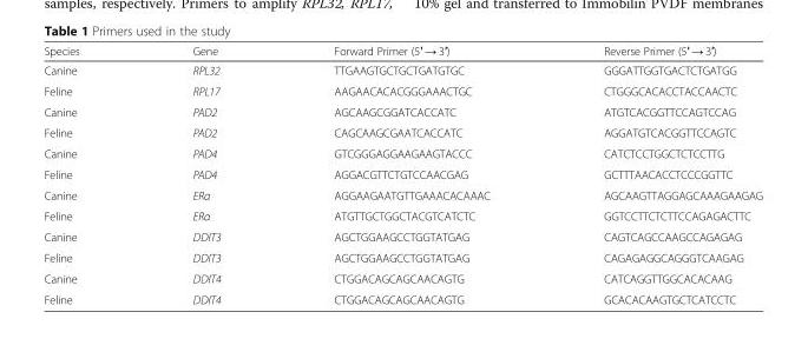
<table><thead><tr><td>Species</td><td>Gene</td><td>Forward Primer (5′ → 3′)</td><td>Reverse Primer (5′ → 3′)</td></tr></thead><tbody><tr><td>Canine</td><td>RPL32</td><td>TTGAAGTGCTGCTGATGTGC</td><td>GGGATTGGTGACTCTGATGG</td></tr><tr><td>Feline</td><td>RPL17</td><td>AAGAACACACGGGAAACTGC</td><td>CTGGGCACACCTACCAACTC</td></tr><tr><td>Canine</td><td>PAD2</td><td>AGCAAGCGGATCACCATC</td><td>ATGTCACGGTTCCAGTCCAG</td></tr><tr><td>Feline</td><td>PAD2</td><td>CAGCAAGCGAATCACCATC</td><td>AGGATGTCACGGTTCCAGTC</td></tr><tr><td>Canine</td><td>PAD4</td><td>GTCGGGAGGAAGAAGTACCC</td><td>CATCTCCTGGCTCTCCTTG</td></tr><tr><td>Feline</td><td>PAD4</td><td>AGGACGTTCTGTCCAACGAG</td><td>GCTTTAACACCTCCCGGTTC</td></tr><tr><td>Canine</td><td>ERα</td><td>AGGAAGAATGTTGAAACACAAAC</td><td>AGCAAGTTAGGAGCAAAGAAGAG</td></tr><tr><td>Feline</td><td>ERα</td><td>ATGTTGCTGGCTACGTCATCTC</td><td>GGTCCTTCTCTTCCAGAGACTTC</td></tr><tr><td>Canine</td><td>DDIT3</td><td>AGCTGGAAGCCTGGTATGAG</td><td>CAGTCAGCCAAGCCAGAGAG</td></tr><tr><td>Feline</td><td>DDIT3</td><td>AGCTGGAAGCCTGGTATGAG</td><td>CAGAGAGGCAGGGTCAAGAG</td></tr><tr><td>Canine</td><td>DDIT4</td><td>CTGGACAGCAGCAACAGTG</td><td>CATCAGGTTGGCACACAAG</td></tr><tr><td>Feline</td><td>DDIT4</td><td>CTGGACAGCAGCAACAGTG</td><td>GCACACAAGTGCTCATCCTC</td></tr></tbody></table>